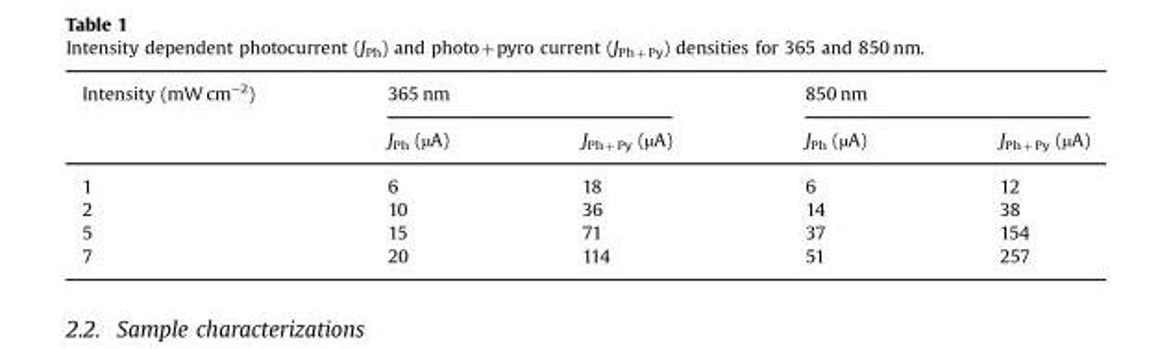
<table><thead><tr><td rowspan="2">Intensity (mW cm<sup>−2</sup>)</td><td colspan="2">365 nm</td><td colspan="2">850 nm</td></tr><tr><td>J<sub>Ph</sub> (µA)</td><td>J<sub>Ph+Py</sub> (µA)</td><td>J<sub>Ph</sub> (µA)</td><td>J<sub>Ph+Py</sub> (µA)</td></tr></thead><tbody><tr><td>1</td><td>6</td><td>18</td><td>6</td><td>12</td></tr><tr><td>2</td><td>10</td><td>36</td><td>14</td><td>38</td></tr><tr><td>5</td><td>15</td><td>71</td><td>37</td><td>154</td></tr><tr><td>7</td><td>20</td><td>114</td><td>51</td><td>257</td></tr></tbody></table>